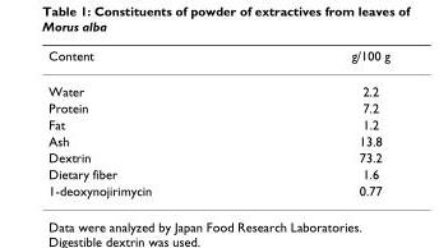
<table><thead><tr><td>Content</td><td>g/100 g</td></tr></thead><tbody><tr><td>Water</td><td>2.2</td></tr><tr><td>Protein</td><td>7.2</td></tr><tr><td>Fat</td><td>1.2</td></tr><tr><td>Ash</td><td>13.8</td></tr><tr><td>Dextrin</td><td>73.2</td></tr><tr><td>Dietary fiber</td><td>1.6</td></tr><tr><td>1-deoxynojirimycin</td><td>0.77</td></tr></tbody></table>